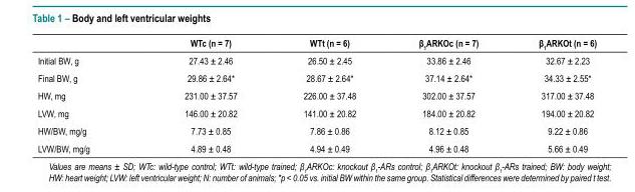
<table><thead><tr><td></td><td>WTc (n = 7)</td><td>WTt (n = 6)</td><td>β<sub>1</sub>ARKOc (n = 7)</td><td>β<sub>1</sub>ARKOt (n = 6)</td></tr></thead><tbody><tr><td>Initial BW, g</td><td>27.43 ± 2.46</td><td>26.50 ± 2.45</td><td>33.86 ± 2.46</td><td>32.67 ± 2.23</td></tr><tr><td>Final BW, g</td><td>29.86 ± 2.64*</td><td>28.67 ± 2.64*</td><td>37.14 ± 2.64*</td><td>34.33 ± 2.55*</td></tr><tr><td>HW, mg</td><td>231.00 ± 37.57</td><td>226.00 ± 37.48</td><td>302.00 ± 37.57</td><td>317.00 ± 37.48</td></tr><tr><td>LVW, mg</td><td>146.00 ± 20.82</td><td>141.00 ± 20.82</td><td>184.00 ± 20.82</td><td>194.00 ± 20.82</td></tr><tr><td>HW/BW, mg/g</td><td>7.73 ± 0.85</td><td>7.86 ± 0.86</td><td>8.12 ± 0.85</td><td>9.22 ± 0.86</td></tr><tr><td>LVW/BW, mg/g</td><td>4.89 ± 0.48</td><td>4.94 ± 0.49</td><td>4.96 ± 0.48</td><td>5.66 ± 0.49</td></tr></tbody></table>